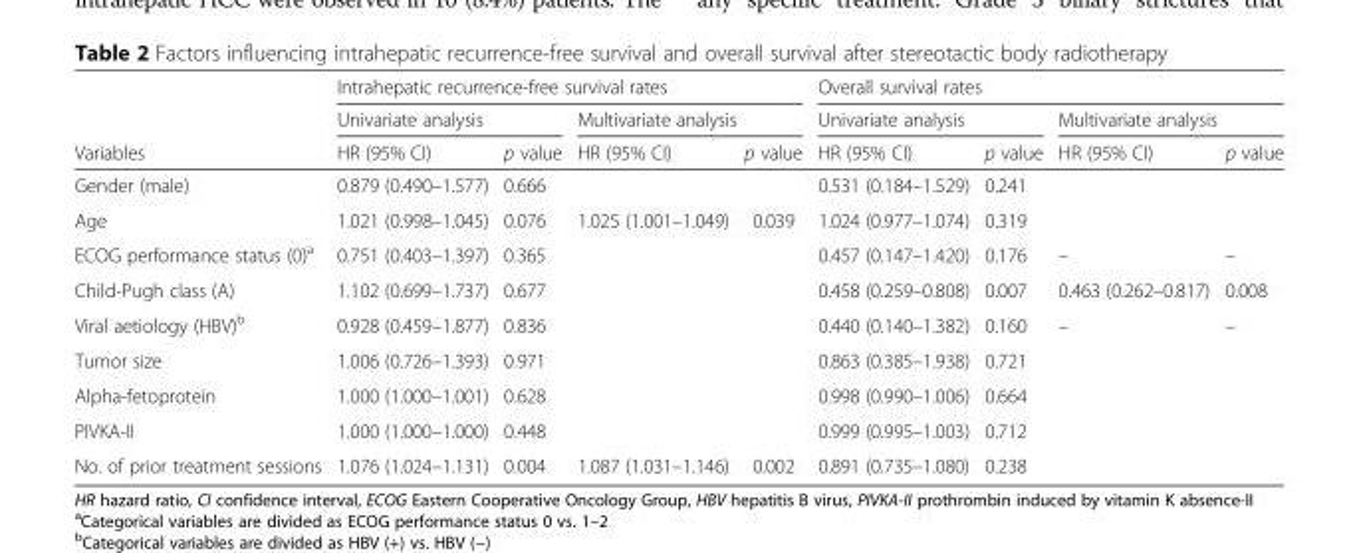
<table><thead><tr><td rowspan="3">Variables</td><td colspan="4">Intrahepatic recurrence-free survival rates</td><td colspan="4">Overall survival rates</td></tr><tr><td colspan="2">Univariate analysis</td><td colspan="2">Multivariate analysis</td><td colspan="2">Univariate analysis</td><td colspan="2">Multivariate analysis</td></tr><tr><td>HR (95% CI)</td><td>p value</td><td>HR (95% CI)</td><td>p value</td><td>HR (95% CI)</td><td>p value</td><td>HR (95% CI)</td><td>p value</td></tr></thead><tbody><tr><td>Gender (male)</td><td>0.879 (0.490–1.577)</td><td>0.666</td><td></td><td></td><td>0.531 (0.184–1.529)</td><td>0.241</td><td></td><td></td></tr><tr><td>Age</td><td>1.021 (0.998–1.045)</td><td>0.076</td><td>1.025 (1.001–1.049)</td><td>0.039</td><td>1.024 (0.977–1.074)</td><td>0.319</td><td></td><td></td></tr><tr><td>ECOG performance status (0)<sup>a</sup></td><td>0.751 (0.403–1.397)</td><td>0.365</td><td></td><td></td><td>0.457 (0.147–1.420)</td><td>0.176</td><td>–</td><td>–</td></tr><tr><td>Child-Pugh class (A)</td><td>1.102 (0.699–1.737)</td><td>0.677</td><td></td><td></td><td>0.458 (0.259–0.808)</td><td>0.007</td><td>0.463 (0.262–0.817)</td><td>0.008</td></tr><tr><td>Viral aetiology (HBV)<sup>b</sup></td><td>0.928 (0.459–1.877)</td><td>0.836</td><td></td><td></td><td>0.440 (0.140–1.382)</td><td>0.160</td><td>–</td><td>–</td></tr><tr><td>Tumor size</td><td>1.006 (0.726–1.393)</td><td>0.971</td><td></td><td></td><td>0.863 (0.385–1.938)</td><td>0.721</td><td></td><td></td></tr><tr><td>Alpha-fetoprotein</td><td>1.000 (1.000–1.001)</td><td>0.628</td><td></td><td></td><td>0.998 (0.990–1.006)</td><td>0.664</td><td></td><td></td></tr><tr><td>PIVKA-II</td><td>1.000 (1.000–1.000)</td><td>0.448</td><td></td><td></td><td>0.999 (0.995–1.003)</td><td>0.712</td><td></td><td></td></tr><tr><td>No. of prior treatment sessions</td><td>1.076 (1.024–1.131)</td><td>0.004</td><td>1.087 (1.031–1.146)</td><td>0.002</td><td>0.891 (0.735–1.080)</td><td>0.238</td><td></td><td></td></tr></tbody></table>